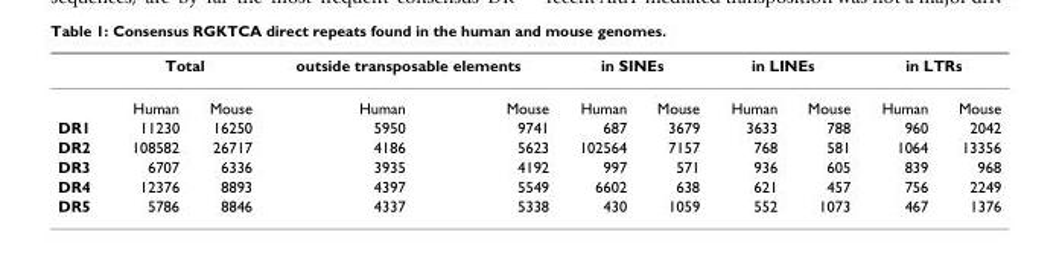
<table><thead><tr><td rowspan="2"></td><td colspan="2">Total</td><td colspan="2">outside transposable elements</td><td colspan="2">in SINEs</td><td colspan="2">in LINEs</td><td colspan="2">in LTRs</td></tr><tr><td>Human</td><td>Mouse</td><td>Human</td><td>Mouse</td><td>Human</td><td>Mouse</td><td>Human</td><td>Mouse</td><td>Human</td><td>Mouse</td></tr></thead><tbody><tr><td>DR1</td><td>11230</td><td>16250</td><td>5950</td><td>9741</td><td>687</td><td>3679</td><td>3633</td><td>788</td><td>960</td><td>2042</td></tr><tr><td>DR2</td><td>108582</td><td>26717</td><td>4186</td><td>5623</td><td>102564</td><td>7157</td><td>768</td><td>581</td><td>1064</td><td>13356</td></tr><tr><td>DR3</td><td>6707</td><td>6336</td><td>3935</td><td>4192</td><td>997</td><td>571</td><td>936</td><td>605</td><td>839</td><td>968</td></tr><tr><td>DR4</td><td>12376</td><td>8893</td><td>4397</td><td>5549</td><td>6602</td><td>638</td><td>621</td><td>457</td><td>756</td><td>2249</td></tr><tr><td>DR5</td><td>5786</td><td>8846</td><td>4337</td><td>5338</td><td>430</td><td>1059</td><td>552</td><td>1073</td><td>467</td><td>1376</td></tr></tbody></table>